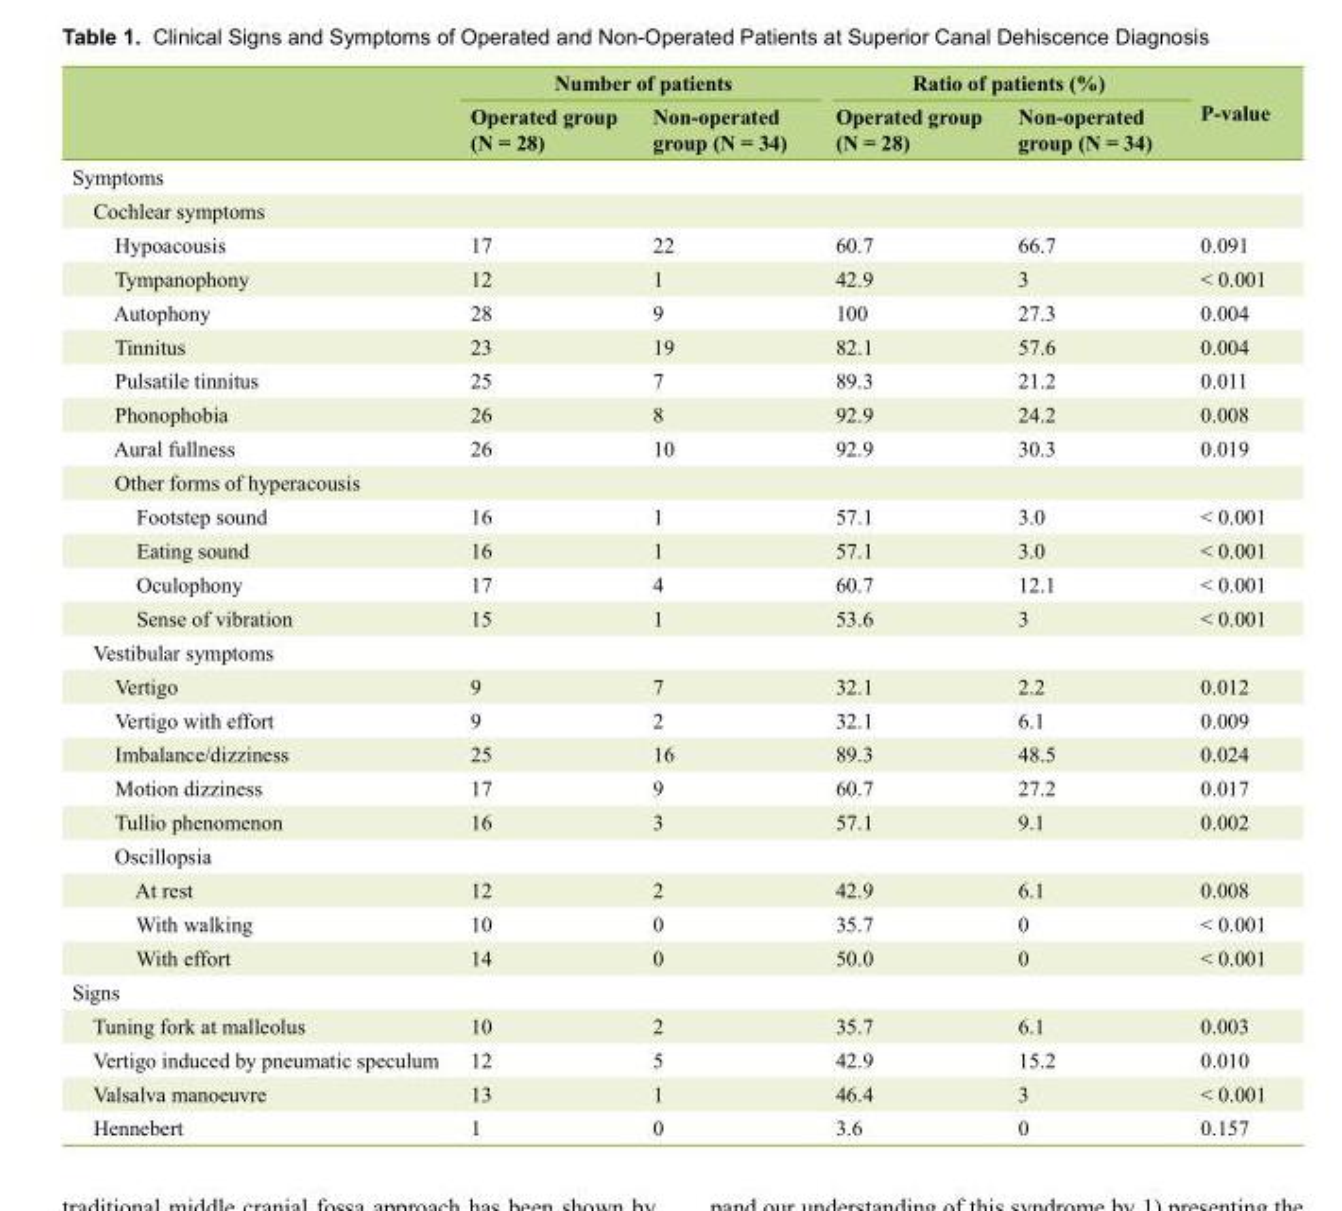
<table><thead><tr><td rowspan="2"></td><td colspan="2">Number of patients</td><td colspan="2">Ratio of patients (%)</td><td rowspan="2">P-value</td></tr><tr><td>Operated group (N = 28)</td><td>Non-operated group (N = 34)</td><td>Operated group (N = 28)</td><td>Non-operated group (N = 34)</td></tr></thead><tbody><tr><td colspan="6">Symptoms</td></tr><tr><td colspan="6">Cochlear symptoms</td></tr><tr><td>Hypoacousis</td><td>17</td><td>22</td><td>60.7</td><td>66.7</td><td>0.091</td></tr><tr><td>Tympanophony</td><td>12</td><td>1</td><td>42.9</td><td>3</td><td>&lt; 0.001</td></tr><tr><td>Autophony</td><td>28</td><td>9</td><td>100</td><td>27.3</td><td>0.004</td></tr><tr><td>Tinnitus</td><td>23</td><td>19</td><td>82.1</td><td>57.6</td><td>0.004</td></tr><tr><td>Pulsatile tinnitus</td><td>25</td><td>7</td><td>89.3</td><td>21.2</td><td>0.011</td></tr><tr><td>Phonophobia</td><td>26</td><td>8</td><td>92.9</td><td>24.2</td><td>0.008</td></tr><tr><td>Aural fullness</td><td>26</td><td>10</td><td>92.9</td><td>30.3</td><td>0.019</td></tr><tr><td colspan="6">Other forms of hyperacousis</td></tr><tr><td>Footstep sound</td><td>16</td><td>1</td><td>57.1</td><td>3.0</td><td>&lt; 0.001</td></tr><tr><td>Eating sound</td><td>16</td><td>1</td><td>57.1</td><td>3.0</td><td>&lt; 0.001</td></tr><tr><td>Oculophony</td><td>17</td><td>4</td><td>60.7</td><td>12.1</td><td>&lt; 0.001</td></tr><tr><td>Sense of vibration</td><td>15</td><td>1</td><td>53.6</td><td>3</td><td>&lt; 0.001</td></tr><tr><td colspan="6">Vestibular symptoms</td></tr><tr><td>Vertigo</td><td>9</td><td>7</td><td>32.1</td><td>2.2</td><td>0.012</td></tr><tr><td>Vertigo with effort</td><td>9</td><td>2</td><td>32.1</td><td>6.1</td><td>0.009</td></tr><tr><td>Imbalance/dizziness</td><td>25</td><td>16</td><td>89.3</td><td>48.5</td><td>0.024</td></tr><tr><td>Motion dizziness</td><td>17</td><td>9</td><td>60.7</td><td>27.2</td><td>0.017</td></tr><tr><td>Tullio phenomenon</td><td>16</td><td>3</td><td>57.1</td><td>9.1</td><td>0.002</td></tr><tr><td colspan="6">Oscillopsia</td></tr><tr><td>At rest</td><td>12</td><td>2</td><td>42.9</td><td>6.1</td><td>0.008</td></tr><tr><td>With walking</td><td>10</td><td>0</td><td>35.7</td><td>0</td><td>&lt; 0.001</td></tr><tr><td>With effort</td><td>14</td><td>0</td><td>50.0</td><td>0</td><td>&lt; 0.001</td></tr><tr><td colspan="6">Signs</td></tr><tr><td>Tuning fork at malleolus</td><td>10</td><td>2</td><td>35.7</td><td>6.1</td><td>0.003</td></tr><tr><td>Vertigo induced by pneumatic speculum</td><td>12</td><td>5</td><td>42.9</td><td>15.2</td><td>0.010</td></tr><tr><td>Valsalva manoeuvre</td><td>13</td><td>1</td><td>46.4</td><td>3</td><td>&lt; 0.001</td></tr><tr><td>Hennebert</td><td>1</td><td>0</td><td>3.6</td><td>0</td><td>0.157</td></tr></tbody></table>